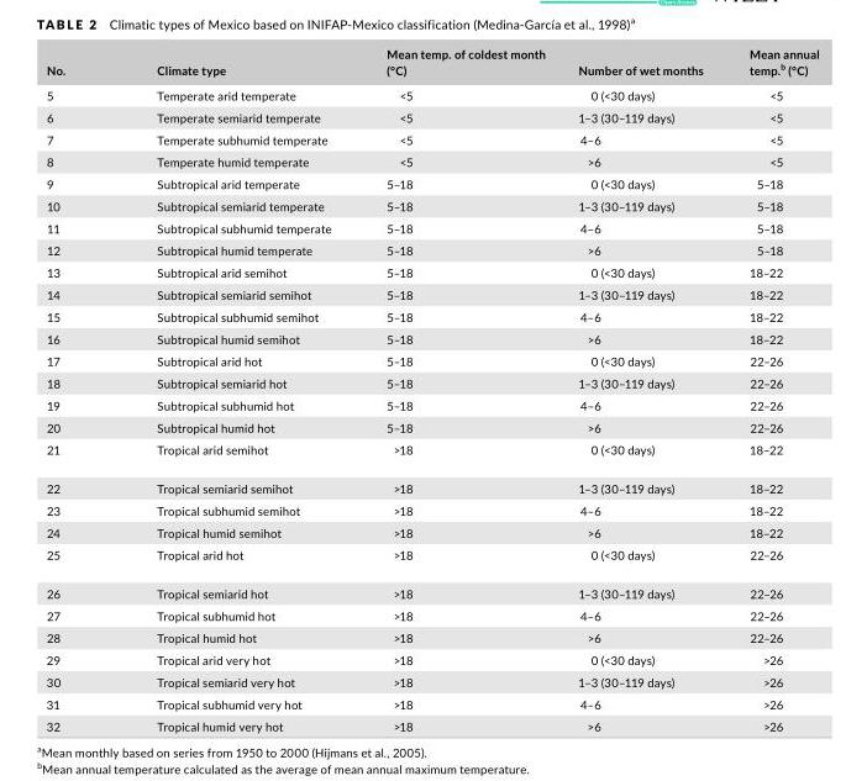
<table><thead><tr><td>No.</td><td>Climate type</td><td>Mean temp. of coldest month (°C)</td><td>Number of wet months</td><td>Mean annual temp.<sup>b</sup> (°C)</td></tr></thead><tbody><tr><td>5</td><td>Temperate arid temperate</td><td>&lt;5</td><td>0 (&lt;30 days)</td><td>&lt;5</td></tr><tr><td>6</td><td>Temperate semiarid temperate</td><td>&lt;5</td><td>1–3 (30–119 days)</td><td>&lt;5</td></tr><tr><td>7</td><td>Temperate subhumid temperate</td><td>&lt;5</td><td>4–6</td><td>&lt;5</td></tr><tr><td>8</td><td>Temperate humid temperate</td><td>&lt;5</td><td>&gt;6</td><td>&lt;5</td></tr><tr><td>9</td><td>Subtropical arid temperate</td><td>5–18</td><td>0 (&lt;30 days)</td><td>5–18</td></tr><tr><td>10</td><td>Subtropical semiarid temperate</td><td>5–18</td><td>1–3 (30–119 days)</td><td>5–18</td></tr><tr><td>11</td><td>Subtropical subhumid temperate</td><td>5–18</td><td>4–6</td><td>5–18</td></tr><tr><td>12</td><td>Subtropical humid temperate</td><td>5–18</td><td>&gt;6</td><td>5–18</td></tr><tr><td>13</td><td>Subtropical arid semihot</td><td>5–18</td><td>0 (&lt;30 days)</td><td>18–22</td></tr><tr><td>14</td><td>Subtropical semiarid semihot</td><td>5–18</td><td>1–3 (30–119 days)</td><td>18–22</td></tr><tr><td>15</td><td>Subtropical subhumid semihot</td><td>5–18</td><td>4–6</td><td>18–22</td></tr><tr><td>16</td><td>Subtropical humid semihot</td><td>5–18</td><td>&gt;6</td><td>18–22</td></tr><tr><td>17</td><td>Subtropical arid hot</td><td>5–18</td><td>0 (&lt;30 days)</td><td>22–26</td></tr><tr><td>18</td><td>Subtropical semiarid hot</td><td>5–18</td><td>1–3 (30–119 days)</td><td>22–26</td></tr><tr><td>19</td><td>Subtropical subhumid hot</td><td>5–18</td><td>4–6</td><td>22–26</td></tr><tr><td>20</td><td>Subtropical humid hot</td><td>5–18</td><td>&gt;6</td><td>22–26</td></tr><tr><td>21</td><td>Tropical arid semihot</td><td>&gt;18</td><td>0 (&lt;30 days)</td><td>18–22</td></tr><tr><td>22</td><td>Tropical semiarid semihot</td><td>&gt;18</td><td>1–3 (30–119 days)</td><td>18–22</td></tr><tr><td>23</td><td>Tropical subhumid semihot</td><td>&gt;18</td><td>4–6</td><td>18–22</td></tr><tr><td>24</td><td>Tropical humid semihot</td><td>&gt;18</td><td>&gt;6</td><td>18–22</td></tr><tr><td>25</td><td>Tropical arid hot</td><td>&gt;18</td><td>0 (&lt;30 days)</td><td>22–26</td></tr><tr><td>26</td><td>Tropical semiarid hot</td><td>&gt;18</td><td>1–3 (30–119 days)</td><td>22–26</td></tr><tr><td>27</td><td>Tropical subhumid hot</td><td>&gt;18</td><td>4–6</td><td>22–26</td></tr><tr><td>28</td><td>Tropical humid hot</td><td>&gt;18</td><td>&gt;6</td><td>22–26</td></tr><tr><td>29</td><td>Tropical arid very hot</td><td>&gt;18</td><td>0 (&lt;30 days)</td><td>&gt;26</td></tr><tr><td>30</td><td>Tropical semiarid very hot</td><td>&gt;18</td><td>1–3 (30–119 days)</td><td>&gt;26</td></tr><tr><td>31</td><td>Tropical subhumid very hot</td><td>&gt;18</td><td>4–6</td><td>&gt;26</td></tr><tr><td>32</td><td>Tropical humid very hot</td><td>&gt;18</td><td>&gt;6</td><td>&gt;26</td></tr></tbody></table>